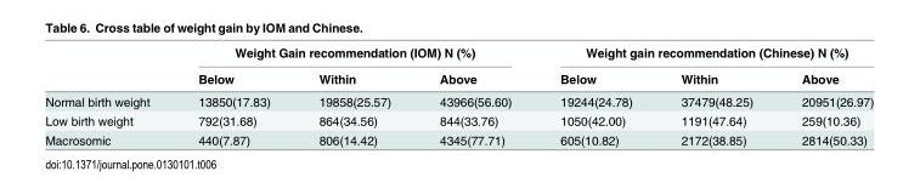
<table><thead><tr><td rowspan="2"></td><td colspan="3">Weight Gain recommendation (IOM) N (%)</td><td colspan="3">Weight gain recommendation (Chinese) N (%)</td></tr><tr><td>Below</td><td>Within</td><td>Above</td><td>Below</td><td>Within</td><td>Above</td></tr></thead><tbody><tr><td>Normal birth weight</td><td>13850(17.83)</td><td>19858(25.57)</td><td>43966(56.60)</td><td>19244(24.78)</td><td>37479(48.25)</td><td>20951(26.97)</td></tr><tr><td>Low birth weight</td><td>792(31.68)</td><td>864(34.56)</td><td>844(33.76)</td><td>1050(42.00)</td><td>1191(47.64)</td><td>259(10.36)</td></tr><tr><td>Macrosomic</td><td>440(7.87)</td><td>806(14.42)</td><td>4345(77.71)</td><td>605(10.82)</td><td>2172(38.85)</td><td>2814(50.33)</td></tr></tbody></table>